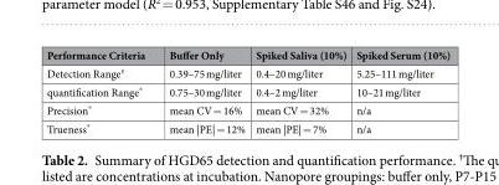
<table><thead><tr><td>Performance Criteria</td><td>Buffer Only</td><td>Spiked Saliva (10%)</td><td>Spiked Serum (10%)</td></tr></thead><tbody><tr><td>Detection Range<sup>†</sup></td><td>0.39–75 mg/liter</td><td>0.4–20 mg/liter</td><td>5.25–111 mg/liter</td></tr><tr><td>quantification Range*</td><td>0.75–30 mg/liter</td><td>0.4–2 mg/liter</td><td>10–21 mg/liter</td></tr><tr><td>Precision*</td><td>mean CV = 16%</td><td>mean CV = 32%</td><td>n/a</td></tr><tr><td>Trueness*</td><td>mean |PE| = 12%</td><td>mean |PE| = 7%</td><td>n/a</td></tr></tbody></table>